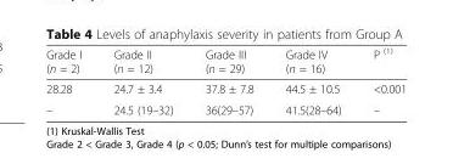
<table><thead><tr><td>Grade I (n = 2)</td><td>Grade II (n = 12)</td><td>Grade III (n = 29)</td><td>Grade IV (n = 16)</td><td>P <sup>(1)</sup></td></tr></thead><tbody><tr><td>28.28</td><td>24.7 ± 3.4</td><td>37.8 ± 7.8</td><td>44.5 ± 10.5</td><td>&lt;0.001</td></tr><tr><td>–</td><td>24.5 (19–32)</td><td>36(29–57)</td><td>41.5(28–64)</td><td>–</td></tr></tbody></table>